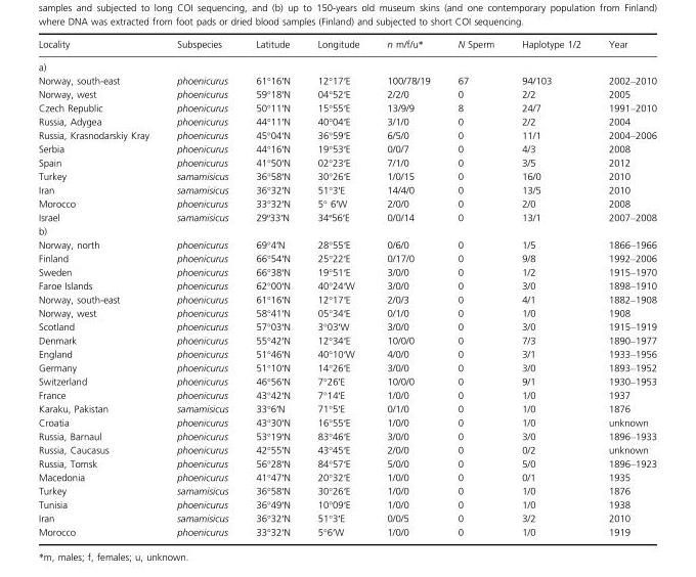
<table><thead><tr><td>Locality</td><td>Subspecies</td><td>Latitude</td><td>Longitude</td><td>n m/f/u*</td><td>N Sperm</td><td>Haplotype 1/2</td><td>Year</td></tr></thead><tbody><tr><td colspan="8">a)</td></tr><tr><td>Norway, south-east</td><td>phoenicurus</td><td>61°16′N</td><td>12°17′E</td><td>100/78/19</td><td>67</td><td>94/103</td><td>2002–2010</td></tr><tr><td>Norway, west</td><td>phoenicurus</td><td>59°18′N</td><td>04°52′E</td><td>2/2/0</td><td>0</td><td>2/2</td><td>2005</td></tr><tr><td>Czech Republic</td><td>phoenicurus</td><td>50°11′N</td><td>15°55′E</td><td>13/9/9</td><td>8</td><td>24/7</td><td>1991–2010</td></tr><tr><td>Russia, Adygea</td><td>phoenicurus</td><td>44°11′N</td><td>40°04′E</td><td>3/1/0</td><td>0</td><td>2/2</td><td>2004</td></tr><tr><td>Russia, Krasnodarskiy Kray</td><td>phoenicurus</td><td>45°04′N</td><td>36°59′E</td><td>6/5/0</td><td>0</td><td>11/1</td><td>2004–2006</td></tr><tr><td>Serbia</td><td>phoenicurus</td><td>44°16′N</td><td>19°53′E</td><td>0/0/7</td><td>0</td><td>4/3</td><td>2008</td></tr><tr><td>Spain</td><td>phoenicurus</td><td>41°50′N</td><td>02°23′E</td><td>7/1/0</td><td>0</td><td>3/5</td><td>2012</td></tr><tr><td>Turkey</td><td>samamisicus</td><td>36°58′N</td><td>30°26′E</td><td>1/0/15</td><td>0</td><td>16/0</td><td>2010</td></tr><tr><td>Iran</td><td>samamisicus</td><td>36°32′N</td><td>51°3′E</td><td>14/4/0</td><td>0</td><td>13/5</td><td>2010</td></tr><tr><td>Morocco</td><td>phoenicurus</td><td>33°32′N</td><td>5° 6′W</td><td>2/0/0</td><td>0</td><td>2/0</td><td>2008</td></tr><tr><td>Israel</td><td>samamisicus</td><td>29º33′N</td><td>34º56′E</td><td>0/0/14</td><td>0</td><td>13/1</td><td>2007–2008</td></tr><tr><td colspan="8">b)</td></tr><tr><td>Norway, north</td><td>phoenicurus</td><td>69°4′N</td><td>28°55′E</td><td>0/6/0</td><td>0</td><td>1/5</td><td>1866–1966</td></tr><tr><td>Finland</td><td>phoenicurus</td><td>66°54′N</td><td>25°22′E</td><td>0/17/0</td><td>0</td><td>9/8</td><td>1992–2006</td></tr><tr><td>Sweden</td><td>phoenicurus</td><td>66°38′N</td><td>19°51′E</td><td>3/0/0</td><td>0</td><td>1/2</td><td>1915–1970</td></tr><tr><td>Faroe Islands</td><td>phoenicurus</td><td>62°00′N</td><td>40°24′W</td><td>3/0/0</td><td>0</td><td>3/0</td><td>1898–1910</td></tr><tr><td>Norway, south-east</td><td>phoenicurus</td><td>61°16′N</td><td>12°17′E</td><td>2/0/3</td><td>0</td><td>4/1</td><td>1882–1908</td></tr><tr><td>Norway, west</td><td>phoenicurus</td><td>58°41′N</td><td>05°34′E</td><td>0/1/0</td><td>0</td><td>1/0</td><td>1908</td></tr><tr><td>Scotland</td><td>phoenicurus</td><td>57°03′N</td><td>3°03′W</td><td>3/0/0</td><td>0</td><td>3/0</td><td>1915–1919</td></tr><tr><td>Denmark</td><td>phoenicurus</td><td>55°42′N</td><td>12°34′E</td><td>10/0/0</td><td>0</td><td>7/3</td><td>1890–1977</td></tr><tr><td>England</td><td>phoenicurus</td><td>51°46′N</td><td>40°10′W</td><td>4/0/0</td><td>0</td><td>3/1</td><td>1933–1956</td></tr><tr><td>Germany</td><td>phoenicurus</td><td>51°10′N</td><td>14°26′E</td><td>3/0/0</td><td>0</td><td>3/0</td><td>1893–1952</td></tr><tr><td>Switzerland</td><td>phoenicurus</td><td>46°56′N</td><td>7°26′E</td><td>10/0/0</td><td>0</td><td>9/1</td><td>1930–1953</td></tr><tr><td>France</td><td>phoenicurus</td><td>43°42′N</td><td>7°14′E</td><td>1/0/0</td><td>0</td><td>1/0</td><td>1937</td></tr><tr><td>Karaku, Pakistan</td><td>samamisicus</td><td>33°6′N</td><td>71°5′E</td><td>0/1/0</td><td>0</td><td>1/0</td><td>1876</td></tr><tr><td>Croatia</td><td>phoenicurus</td><td>43°30′N</td><td>16°55′E</td><td>1/0/0</td><td>0</td><td>1/0</td><td>unknown</td></tr><tr><td>Russia, Barnaul</td><td>phoenicurus</td><td>53°19′N</td><td>83°46′E</td><td>3/0/0</td><td>0</td><td>3/0</td><td>1896–1933</td></tr><tr><td>Russia, Caucasus</td><td>phoenicurus</td><td>42°55′N</td><td>43°45′E</td><td>2/0/0</td><td>0</td><td>0/2</td><td>unknown</td></tr><tr><td>Russia, Tomsk</td><td>phoenicurus</td><td>56°28′N</td><td>84°57′E</td><td>5/0/0</td><td>0</td><td>5/0</td><td>1896–1923</td></tr><tr><td>Macedonia</td><td>phoenicurus</td><td>41°47′N</td><td>20°32′E</td><td>1/0/0</td><td>0</td><td>0/1</td><td>1935</td></tr><tr><td>Turkey</td><td>samamisicus</td><td>36°58′N</td><td>30°26′E</td><td>1/0/0</td><td>0</td><td>1/0</td><td>1876</td></tr><tr><td>Tunisia</td><td>phoenicurus</td><td>36°49′N</td><td>10°09′E</td><td>1/0/0</td><td>0</td><td>1/0</td><td>1938</td></tr><tr><td>Iran</td><td>samamisicus</td><td>36°32′N</td><td>51°3′E</td><td>0/0/5</td><td>0</td><td>3/2</td><td>2010</td></tr><tr><td>Morocco</td><td>phoenicurus</td><td>33°32′N</td><td>5°6′W</td><td>1/0/0</td><td>0</td><td>1/0</td><td>1919</td></tr></tbody></table>